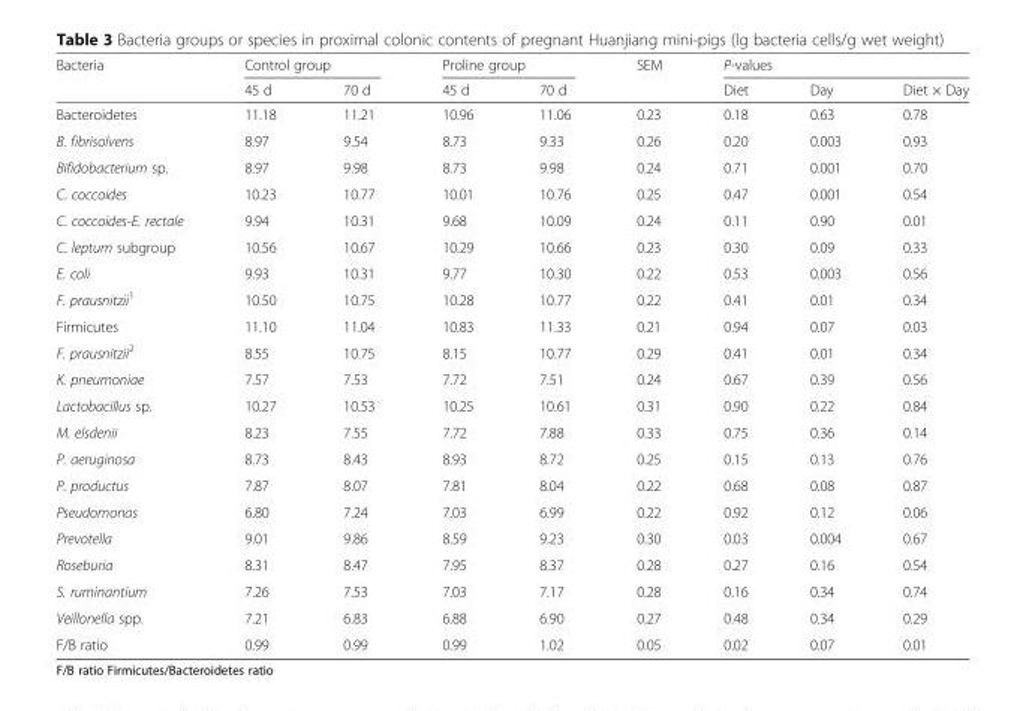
<table><thead><tr><td rowspan="2">Bacteria</td><td colspan="2">Control group</td><td colspan="2">Proline group</td><td rowspan="2">SEM</td><td colspan="3">P-values</td></tr><tr><td>45 d</td><td>70 d</td><td>45 d</td><td>70 d</td><td>Diet</td><td>Day</td><td>Diet × Day</td></tr></thead><tbody><tr><td>Bacteroidetes</td><td>11.18</td><td>11.21</td><td>10.96</td><td>11.06</td><td>0.23</td><td>0.18</td><td>0.63</td><td>0.78</td></tr><tr><td>B. fibrisolvens</td><td>8.97</td><td>9.54</td><td>8.73</td><td>9.33</td><td>0.26</td><td>0.20</td><td>0.003</td><td>0.93</td></tr><tr><td>Bifidobacterium sp.</td><td>8.97</td><td>9.98</td><td>8.73</td><td>9.98</td><td>0.24</td><td>0.71</td><td>0.001</td><td>0.70</td></tr><tr><td>C. coccoides</td><td>10.23</td><td>10.77</td><td>10.01</td><td>10.76</td><td>0.25</td><td>0.47</td><td>0.001</td><td>0.54</td></tr><tr><td>C. coccoides-E. rectale</td><td>9.94</td><td>10.31</td><td>9.68</td><td>10.09</td><td>0.24</td><td>0.11</td><td>0.90</td><td>0.01</td></tr><tr><td>C. leptum subgroup</td><td>10.56</td><td>10.67</td><td>10.29</td><td>10.66</td><td>0.23</td><td>0.30</td><td>0.09</td><td>0.33</td></tr><tr><td>E. coli</td><td>9.93</td><td>10.31</td><td>9.77</td><td>10.30</td><td>0.22</td><td>0.53</td><td>0.003</td><td>0.56</td></tr><tr><td>F. prausnitzii<sup>1</sup></td><td>10.50</td><td>10.75</td><td>10.28</td><td>10.77</td><td>0.22</td><td>0.41</td><td>0.01</td><td>0.34</td></tr><tr><td>Firmicutes</td><td>11.10</td><td>11.04</td><td>10.83</td><td>11.33</td><td>0.21</td><td>0.94</td><td>0.07</td><td>0.03</td></tr><tr><td>F. prausnitzii<sup>2</sup></td><td>8.55</td><td>10.75</td><td>8.15</td><td>10.77</td><td>0.29</td><td>0.41</td><td>0.01</td><td>0.34</td></tr><tr><td>K. pneumoniae</td><td>7.57</td><td>7.53</td><td>7.72</td><td>7.51</td><td>0.24</td><td>0.67</td><td>0.39</td><td>0.56</td></tr><tr><td>Lactobacillus sp.</td><td>10.27</td><td>10.53</td><td>10.25</td><td>10.61</td><td>0.31</td><td>0.90</td><td>0.22</td><td>0.84</td></tr><tr><td>M. elsdenii</td><td>8.23</td><td>7.55</td><td>7.72</td><td>7.88</td><td>0.33</td><td>0.75</td><td>0.36</td><td>0.14</td></tr><tr><td>P. aeruginosa</td><td>8.73</td><td>8.43</td><td>8.93</td><td>8.72</td><td>0.25</td><td>0.15</td><td>0.13</td><td>0.76</td></tr><tr><td>P. productus</td><td>7.87</td><td>8.07</td><td>7.81</td><td>8.04</td><td>0.22</td><td>0.68</td><td>0.08</td><td>0.87</td></tr><tr><td>Pseudomonas</td><td>6.80</td><td>7.24</td><td>7.03</td><td>6.99</td><td>0.22</td><td>0.92</td><td>0.12</td><td>0.06</td></tr><tr><td>Prevotella</td><td>9.01</td><td>9.86</td><td>8.59</td><td>9.23</td><td>0.30</td><td>0.03</td><td>0.004</td><td>0.67</td></tr><tr><td>Roseburia</td><td>8.31</td><td>8.47</td><td>7.95</td><td>8.37</td><td>0.28</td><td>0.27</td><td>0.16</td><td>0.54</td></tr><tr><td>S. ruminantium</td><td>7.26</td><td>7.53</td><td>7.03</td><td>7.17</td><td>0.28</td><td>0.16</td><td>0.34</td><td>0.74</td></tr><tr><td>Veillonella spp.</td><td>7.21</td><td>6.83</td><td>6.88</td><td>6.90</td><td>0.27</td><td>0.48</td><td>0.34</td><td>0.29</td></tr><tr><td>F/B ratio</td><td>0.99</td><td>0.99</td><td>0.99</td><td>1.02</td><td>0.05</td><td>0.02</td><td>0.07</td><td>0.01</td></tr></tbody></table>